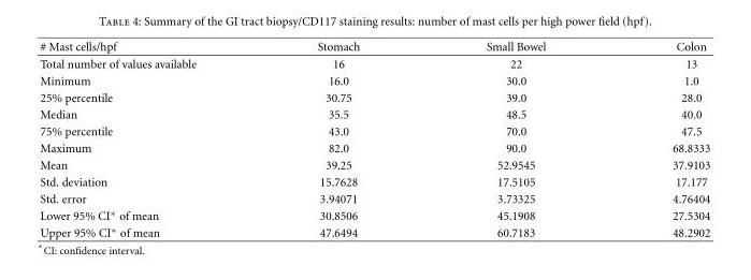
<table><thead><tr><td># Mast cells/hpf</td><td>Stomach</td><td>Small Bowel</td><td>Colon</td></tr></thead><tbody><tr><td>Total number of values available</td><td>16</td><td>22</td><td>13</td></tr><tr><td>Minimum</td><td>16.0</td><td>30.0</td><td>1.0</td></tr><tr><td>25% percentile</td><td>30.75</td><td>39.0</td><td>28.0</td></tr><tr><td>Median</td><td>35.5</td><td>48.5</td><td>40.0</td></tr><tr><td>75% percentile</td><td>43.0</td><td>70.0</td><td>47.5</td></tr><tr><td>Maximum</td><td>82.0</td><td>90.0</td><td>68.8333</td></tr><tr><td>Mean</td><td>39.25</td><td>52.9545</td><td>37.9103</td></tr><tr><td>Std. deviation</td><td>15.7628</td><td>17.5105</td><td>17.177</td></tr><tr><td>Std. error</td><td>3.94071</td><td>3.73325</td><td>4.76404</td></tr><tr><td>Lower 95% CI∗ of mean</td><td>30.8506</td><td>45.1908</td><td>27.5304</td></tr><tr><td>Upper 95% CI∗ of mean</td><td>47.6494</td><td>60.7183</td><td>48.2902</td></tr></tbody></table>